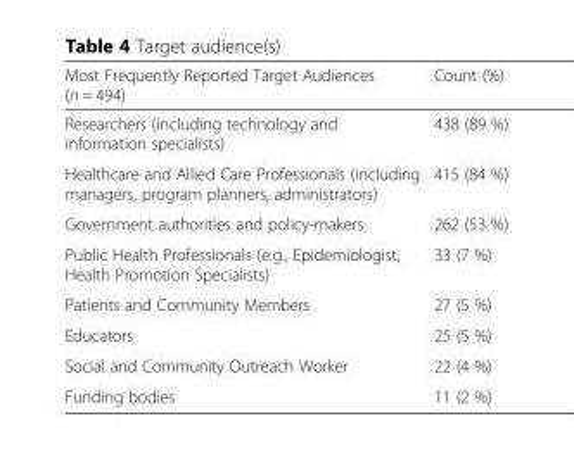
<table><thead><tr><td>Most Frequently Reported Target Audiences (n = 494)</td><td>Count (%)</td></tr></thead><tbody><tr><td>Researchers (including technology and information specialists)</td><td>438 (89 %)</td></tr><tr><td>Healthcare and Allied Care Professionals (including managers, program planners, administrators)</td><td>415 (84 %)</td></tr><tr><td>Government authorities and policy-makers</td><td>262 (53 %)</td></tr><tr><td>Public Health Professionals (e.g., Epidemiologist, Health Promotion Specialists)</td><td>33 (7 %)</td></tr><tr><td>Patients and Community Members</td><td>27 (5 %)</td></tr><tr><td>Educators</td><td>25 (5 %)</td></tr><tr><td>Social and Community Outreach Worker</td><td>22 (4 %)</td></tr><tr><td>Funding bodies</td><td>11 (2 %)</td></tr></tbody></table>